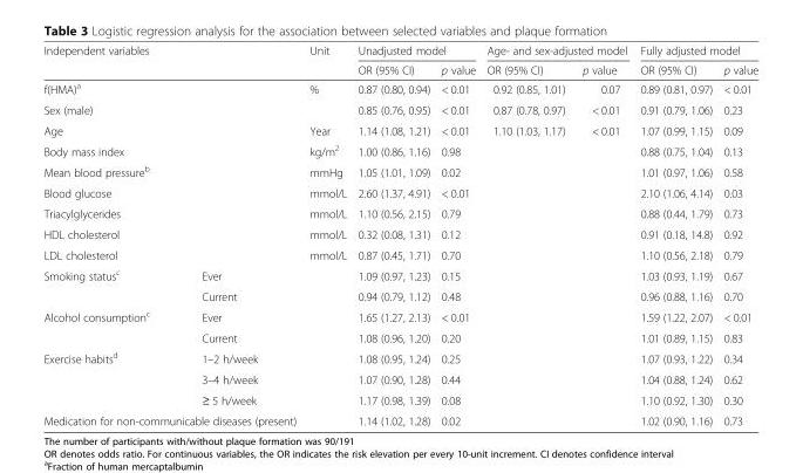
<table><thead><tr><td rowspan="2" colspan="2">Independent variables</td><td rowspan="2">Unit</td><td colspan="2">Unadjusted model</td><td colspan="2">Age- and sex-adjusted model</td><td colspan="2">Fully adjusted model</td></tr><tr><td>OR (95% CI)</td><td>p value</td><td>OR (95% CI)</td><td>p value</td><td>OR (95% CI)</td><td>p value</td></tr></thead><tbody><tr><td colspan="2">f(HMA)<sup>a</sup></td><td>%</td><td>0.87 (0.80, 0.94)</td><td>&lt; 0.01</td><td>0.92 (0.85, 1.01)</td><td>0.07</td><td>0.89 (0.81, 0.97)</td><td>&lt; 0.01</td></tr><tr><td colspan="2">Sex (male)</td><td></td><td>0.85 (0.76, 0.95)</td><td>&lt; 0.01</td><td>0.87 (0.78, 0.97)</td><td>&lt; 0.01</td><td>0.91 (0.79, 1.06)</td><td>0.23</td></tr><tr><td colspan="2">Age</td><td>Year</td><td>1.14 (1.08, 1.21)</td><td>&lt; 0.01</td><td>1.10 (1.03, 1.17)</td><td>&lt; 0.01</td><td>1.07 (0.99, 1.15)</td><td>0.09</td></tr><tr><td colspan="2">Body mass index</td><td>kg/m<sup>2</sup></td><td>1.00 (0.86, 1.16)</td><td>0.98</td><td></td><td></td><td>0.88 (0.75, 1.04)</td><td>0.13</td></tr><tr><td colspan="2">Mean blood pressure<sup>b</sup></td><td>mmHg</td><td>1.05 (1.01, 1.09)</td><td>0.02</td><td></td><td></td><td>1.01 (0.97, 1.06)</td><td>0.58</td></tr><tr><td colspan="2">Blood glucose</td><td>mmol/L</td><td>2.60 (1.37, 4.91)</td><td>&lt; 0.01</td><td></td><td></td><td>2.10 (1.06, 4.14)</td><td>0.03</td></tr><tr><td colspan="2">Triacylglycerides</td><td>mmol/L</td><td>1.10 (0.56, 2.15)</td><td>0.79</td><td></td><td></td><td>0.88 (0.44, 1.79)</td><td>0.73</td></tr><tr><td colspan="2">HDL cholesterol</td><td>mmol/L</td><td>0.32 (0.08, 1.31)</td><td>0.12</td><td></td><td></td><td>0.91 (0.18, 14.8)</td><td>0.92</td></tr><tr><td colspan="2">LDL cholesterol</td><td>mmol/L</td><td>0.87 (0.45, 1.71)</td><td>0.70</td><td></td><td></td><td>1.10 (0.56, 2.18)</td><td>0.79</td></tr><tr><td rowspan="2">Smoking status<sup>c</sup></td><td>Ever</td><td></td><td>1.09 (0.97, 1.23)</td><td>0.15</td><td></td><td></td><td>1.03 (0.93, 1.19)</td><td>0.67</td></tr><tr><td>Current</td><td></td><td>0.94 (0.79, 1.12)</td><td>0.48</td><td></td><td></td><td>0.96 (0.88, 1.16)</td><td>0.70</td></tr><tr><td rowspan="2">Alcohol consumption<sup>c</sup></td><td>Ever</td><td></td><td>1.65 (1.27, 2.13)</td><td>&lt; 0.01</td><td></td><td></td><td>1.59 (1.22, 2.07)</td><td>&lt; 0.01</td></tr><tr><td>Current</td><td></td><td>1.08 (0.96, 1.20)</td><td>0.20</td><td></td><td></td><td>1.01 (0.89, 1.15)</td><td>0.83</td></tr><tr><td rowspan="3">Exercise habits<sup>d</sup></td><td>1–2 h/week</td><td></td><td>1.08 (0.95, 1.24)</td><td>0.25</td><td></td><td></td><td>1.07 (0.93, 1.22)</td><td>0.34</td></tr><tr><td>3–4 h/week</td><td></td><td>1.07 (0.90, 1.28)</td><td>0.44</td><td></td><td></td><td>1.04 (0.88, 1.24)</td><td>0.62</td></tr><tr><td>≥ 5 h/week</td><td></td><td>1.17 (0.98, 1.39)</td><td>0.08</td><td></td><td></td><td>1.10 (0.92, 1.30)</td><td>0.30</td></tr><tr><td colspan="2">Medication for non-communicable diseases (present)</td><td></td><td>1.14 (1.02, 1.28)</td><td>0.02</td><td></td><td></td><td>1.02 (0.90, 1.16)</td><td>0.73</td></tr></tbody></table>